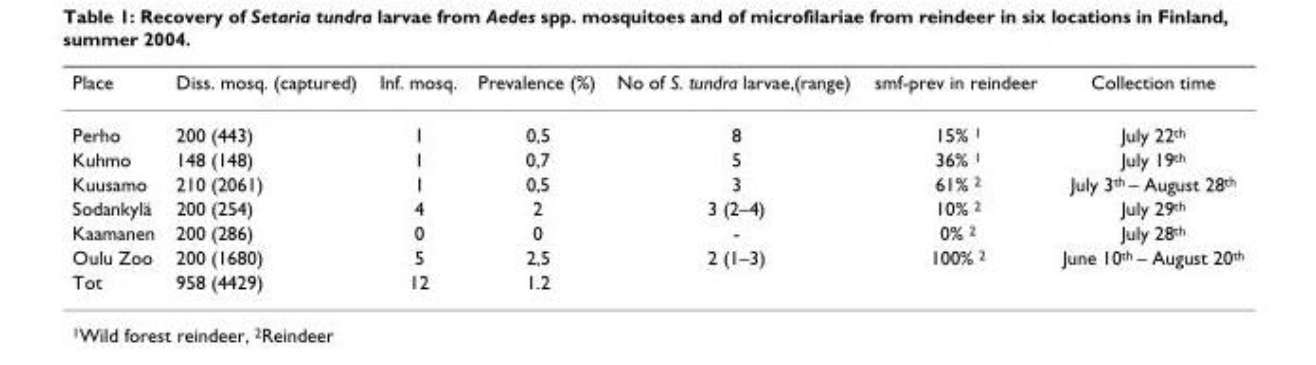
<table><thead><tr><td>Place</td><td>Diss. mosq. (captured)</td><td>Inf. mosq.</td><td>Prevalence (%)</td><td>No of S. tundra larvae,(range)</td><td>smf-prev in reindeer</td><td>Collection time</td></tr></thead><tbody><tr><td>Perho</td><td>200 (443)</td><td>1</td><td>0,5</td><td>8</td><td>15% <sup>1</sup></td><td>July 22<sup>th</sup></td></tr><tr><td>Kuhmo</td><td>148 (148)</td><td>1</td><td>0,7</td><td>5</td><td>36% <sup>1</sup></td><td>July 19<sup>th</sup></td></tr><tr><td>Kuusamo</td><td>210 (2061)</td><td>1</td><td>0,5</td><td>3</td><td>61% <sup>2</sup></td><td>July 3<sup>th</sup> – August 28<sup>th</sup></td></tr><tr><td>Sodankylä</td><td>200 (254)</td><td>4</td><td>2</td><td>3 (2–4)</td><td>10% <sup>2</sup></td><td>July 29<sup>th</sup></td></tr><tr><td>Kaamanen</td><td>200 (286)</td><td>0</td><td>0</td><td>-</td><td>0% <sup>2</sup></td><td>July 28<sup>th</sup></td></tr><tr><td>Oulu Zoo</td><td>200 (1680)</td><td>5</td><td>2,5</td><td>2 (1–3)</td><td>100% <sup>2</sup></td><td>June 10<sup>th</sup> – August 20<sup>th</sup></td></tr><tr><td>Tot</td><td>958 (4429)</td><td>12</td><td>1.2</td><td></td><td></td><td></td></tr></tbody></table>